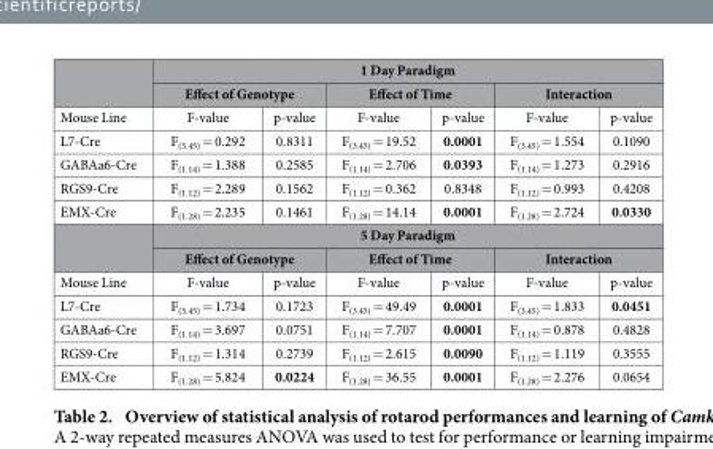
<table><thead><tr><td rowspan="3">Mouse Line</td><td colspan="6">1 Day Paradigm</td></tr><tr><td colspan="2">Effect of Genotype</td><td colspan="2">Effect of Time</td><td colspan="2">Interaction</td></tr><tr><td>F-value</td><td>p-value</td><td>F-value</td><td>p-value</td><td>F-value</td><td>p-value</td></tr></thead><tbody><tr><td>L7-Cre</td><td>F<sub>(3.45)</sub> = 0.292</td><td>0.8311</td><td>F<sub>(3.45)</sub> = 19.52</td><td>0.0001</td><td>F<sub>(3.45)</sub> = 1.554</td><td>0.1090</td></tr><tr><td>GABAa6-Cre</td><td>F<sub>(1.14)</sub> = 1.388</td><td>0.2585</td><td>F<sub>(1.14)</sub> = 2.706</td><td>0.0393</td><td>F<sub>(1.14)</sub> = 1.273</td><td>0.2916</td></tr><tr><td>RGS9-Cre</td><td>F<sub>(1.12)</sub> = 2.289</td><td>0.1562</td><td>F<sub>(1.12)</sub> = 0.362</td><td>0.8348</td><td>F<sub>(1.12)</sub> = 0.993</td><td>0.4208</td></tr><tr><td rowspan="3">EMX-Cre</td><td>F<sub>(1.28)</sub> = 2.235</td><td>0.1461</td><td>F<sub>(1.28)</sub> = 14.14</td><td>0.0001</td><td>F<sub>(1.28)</sub> = 2.724</td><td>0.0330</td></tr><tr><td colspan="6">5 Day Paradigm</td></tr><tr><td colspan="2">Effect of Genotype</td><td colspan="2">Effect of Time</td><td colspan="2">Interaction</td></tr><tr><td>Mouse Line</td><td>F-value</td><td>p-value</td><td>F-value</td><td>p-value</td><td>F-value</td><td>p-value</td></tr><tr><td>L7-Cre</td><td>F<sub>(3.45)</sub> = 1.734</td><td>0.1723</td><td>F<sub>(3.45)</sub> = 49.49</td><td>0.0001</td><td>F<sub>(3.45)</sub> = 1.833</td><td>0.0451</td></tr><tr><td>GABAa6-Cre</td><td>F<sub>(1.14)</sub> = 3.697</td><td>0.0751</td><td>F<sub>(1.14)</sub> = 7.707</td><td>0.0001</td><td>F<sub>(1.14)</sub> = 0.878</td><td>0.4828</td></tr><tr><td>RGS9-Cre</td><td>F<sub>(1.12)</sub> = 1.314</td><td>0.2739</td><td>F<sub>(1.12)</sub> = 2.615</td><td>0.0090</td><td>F<sub>(1.12)</sub> = 1.119</td><td>0.3555</td></tr><tr><td>EMX-Cre</td><td>F<sub>(1.28)</sub> = 5.824</td><td>0.0224</td><td>F<sub>(1.28)</sub> = 36.55</td><td>0.0001</td><td>F<sub>(1.28)</sub> = 2.276</td><td>0.0654</td></tr></tbody></table>